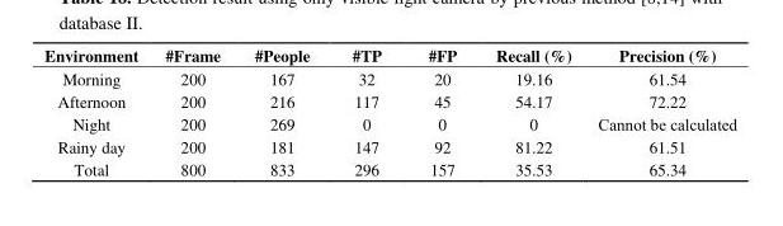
<table><thead><tr><td>Environment</td><td>#Frame</td><td>#People</td><td>#TP</td><td>#FP</td><td>Recall (%)</td><td>Precision (%)</td></tr></thead><tbody><tr><td>Morning</td><td>200</td><td>167</td><td>32</td><td>20</td><td>19.16</td><td>61.54</td></tr><tr><td>Afternoon</td><td>200</td><td>216</td><td>117</td><td>45</td><td>54.17</td><td>72.22</td></tr><tr><td>Night</td><td>200</td><td>269</td><td>0</td><td>0</td><td>0</td><td>Cannot be calculated</td></tr><tr><td>Rainy day</td><td>200</td><td>181</td><td>147</td><td>92</td><td>81.22</td><td>61.51</td></tr><tr><td>Total</td><td>800</td><td>833</td><td>296</td><td>157</td><td>35.53</td><td>65.34</td></tr></tbody></table>